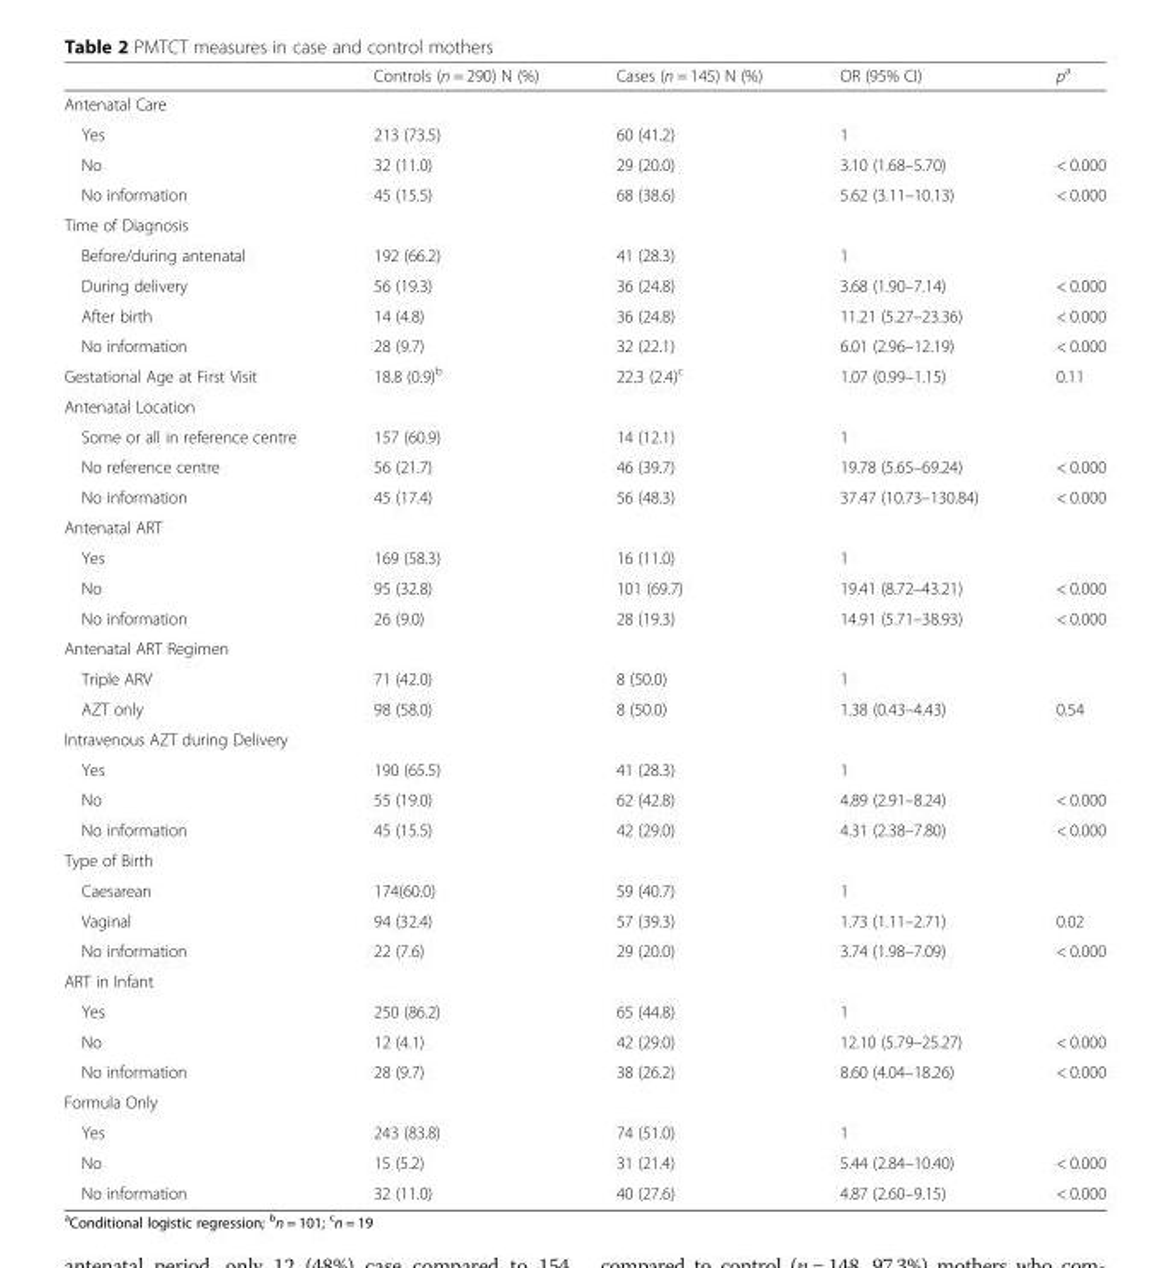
<table><thead><tr><td></td><td>Controls (n = 290) N (%)</td><td>Cases (n = 145) N (%)</td><td>OR (95% CI)</td><td>p<sup>a</sup></td></tr></thead><tbody><tr><td colspan="5">Antenatal Care</td></tr><tr><td>Yes</td><td>213 (73.5)</td><td>60 (41.2)</td><td>1</td><td></td></tr><tr><td>No</td><td>32 (11.0)</td><td>29 (20.0)</td><td>3.10 (1.68–5.70)</td><td>&lt; 0.000</td></tr><tr><td>No information</td><td>45 (15.5)</td><td>68 (38.6)</td><td>5.62 (3.11–10.13)</td><td>&lt; 0.000</td></tr><tr><td colspan="5">Time of Diagnosis</td></tr><tr><td>Before/during antenatal</td><td>192 (66.2)</td><td>41 (28.3)</td><td>1</td><td></td></tr><tr><td>During delivery</td><td>56 (19.3)</td><td>36 (24.8)</td><td>3.68 (1.90–7.14)</td><td>&lt; 0.000</td></tr><tr><td>After birth</td><td>14 (4.8)</td><td>36 (24.8)</td><td>11.21 (5.27–23.36)</td><td>&lt; 0.000</td></tr><tr><td>No information</td><td>28 (9.7)</td><td>32 (22.1)</td><td>6.01 (2.96–12.19)</td><td>&lt; 0.000</td></tr><tr><td>Gestational Age at First Visit</td><td>18.8 (0.9)<sup>b</sup></td><td>22.3 (2.4)<sup>c</sup></td><td>1.07 (0.99–1.15)</td><td>0.11</td></tr><tr><td colspan="5">Antenatal Location</td></tr><tr><td>Some or all in reference centre</td><td>157 (60.9)</td><td>14 (12.1)</td><td>1</td><td></td></tr><tr><td>No reference centre</td><td>56 (21.7)</td><td>46 (39.7)</td><td>19.78 (5.65–69.24)</td><td>&lt; 0.000</td></tr><tr><td>No information</td><td>45 (17.4)</td><td>56 (48.3)</td><td>37.47 (10.73–130.84)</td><td>&lt; 0.000</td></tr><tr><td colspan="5">Antenatal ART</td></tr><tr><td>Yes</td><td>169 (58.3)</td><td>16 (11.0)</td><td>1</td><td></td></tr><tr><td>No</td><td>95 (32.8)</td><td>101 (69.7)</td><td>19.41 (8.72–43.21)</td><td>&lt; 0.000</td></tr><tr><td>No information</td><td>26 (9.0)</td><td>28 (19.3)</td><td>14.91 (5.71–38.93)</td><td>&lt; 0.000</td></tr><tr><td colspan="5">Antenatal ART Regimen</td></tr><tr><td>Triple ARV</td><td>71 (42.0)</td><td>8 (50.0)</td><td>1</td><td></td></tr><tr><td>AZT only</td><td>98 (58.0)</td><td>8 (50.0)</td><td>1.38 (0.43–4.43)</td><td>0.54</td></tr><tr><td colspan="5">Intravenous AZT during Delivery</td></tr><tr><td>Yes</td><td>190 (65.5)</td><td>41 (28.3)</td><td>1</td><td></td></tr><tr><td>No</td><td>55 (19.0)</td><td>62 (42.8)</td><td>4.89 (2.91–8.24)</td><td>&lt; 0.000</td></tr><tr><td>No information</td><td>45 (15.5)</td><td>42 (29.0)</td><td>4.31 (2.38–7.80)</td><td>&lt; 0.000</td></tr><tr><td colspan="5">Type of Birth</td></tr><tr><td>Caesarean</td><td>174(60.0)</td><td>59 (40.7)</td><td>1</td><td></td></tr><tr><td>Vaginal</td><td>94 (32.4)</td><td>57 (39.3)</td><td>1.73 (1.11–2.71)</td><td>0.02</td></tr><tr><td>No information</td><td>22 (7.6)</td><td>29 (20.0)</td><td>3.74 (1.98–7.09)</td><td>&lt; 0.000</td></tr><tr><td colspan="5">ART in Infant</td></tr><tr><td>Yes</td><td>250 (86.2)</td><td>65 (44.8)</td><td>1</td><td></td></tr><tr><td>No</td><td>12 (4.1)</td><td>42 (29.0)</td><td>12.10 (5.79–25.27)</td><td>&lt; 0.000</td></tr><tr><td>No information</td><td>28 (9.7)</td><td>38 (26.2)</td><td>8.60 (4.04–18.26)</td><td>&lt; 0.000</td></tr><tr><td colspan="5">Formula Only</td></tr><tr><td>Yes</td><td>243 (83.8)</td><td>74 (51.0)</td><td>1</td><td></td></tr><tr><td>No</td><td>15 (5.2)</td><td>31 (21.4)</td><td>5.44 (2.84–10.40)</td><td>&lt; 0.000</td></tr><tr><td>No information</td><td>32 (11.0)</td><td>40 (27.6)</td><td>4.87 (2.60–9.15)</td><td>&lt; 0.000</td></tr></tbody></table>